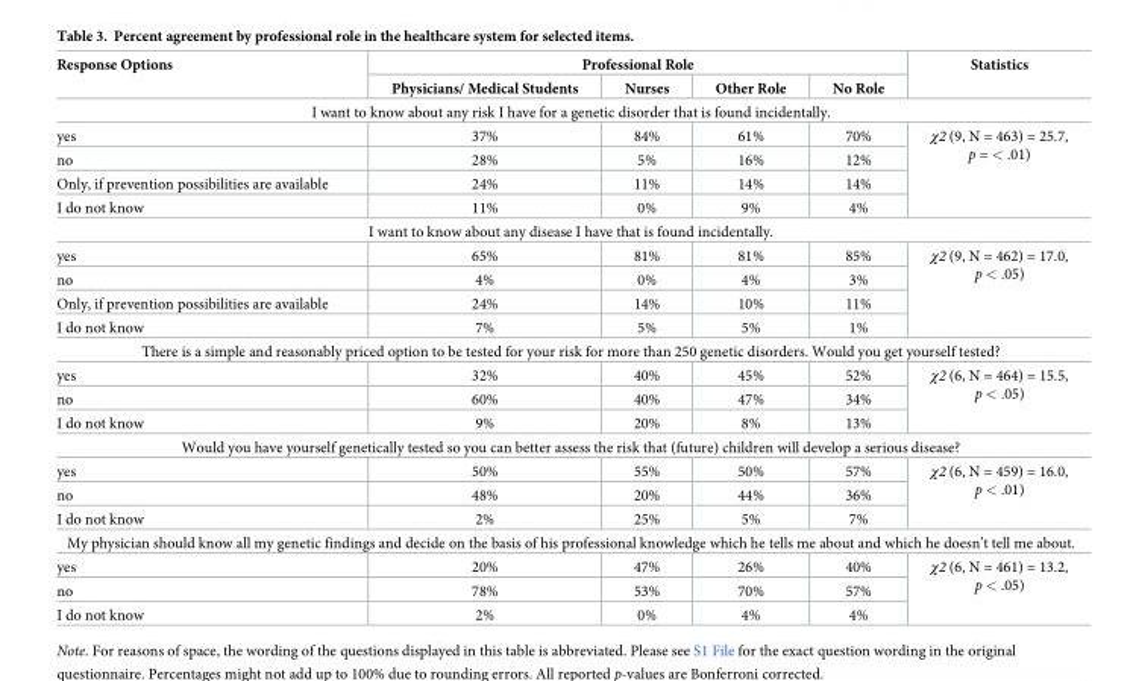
<table><thead><tr><td rowspan="2">Response Options</td><td colspan="4">Professional Role</td><td rowspan="2">Statistics</td></tr><tr><td>Physicians/ Medical Students</td><td>Nurses</td><td>Other Role</td><td>No Role</td></tr></thead><tbody><tr><td colspan="6">I want to know about any risk I have for a genetic disorder that is found incidentally.</td></tr><tr><td>yes</td><td>37%</td><td>84%</td><td>61%</td><td>70%</td><td rowspan="4">χ2 (9, N = 463) = 25.7, p = &lt; .01)</td></tr><tr><td>no</td><td>28%</td><td>5%</td><td>16%</td><td>12%</td></tr><tr><td>Only, if prevention possibilities are available</td><td>24%</td><td>11%</td><td>14%</td><td>14%</td></tr><tr><td>I do not know</td><td>11%</td><td>0%</td><td>9%</td><td>4%</td></tr><tr><td colspan="6">I want to know about any disease I have that is found incidentally.</td></tr><tr><td>yes</td><td>65%</td><td>81%</td><td>81%</td><td>85%</td><td rowspan="4">χ2 (9, N = 462) = 17.0, p &lt; .05)</td></tr><tr><td>no</td><td>4%</td><td>0%</td><td>4%</td><td>3%</td></tr><tr><td>Only, if prevention possibilities are available</td><td>24%</td><td>14%</td><td>10%</td><td>11%</td></tr><tr><td>I do not know</td><td>7%</td><td>5%</td><td>5%</td><td>1%</td></tr><tr><td colspan="6">There is a simple and reasonably priced option to be tested for your risk for more than 250 genetic disorders. Would you get yourself tested?</td></tr><tr><td>yes</td><td>32%</td><td>40%</td><td>45%</td><td>52%</td><td rowspan="3">χ2 (6, N = 464) = 15.5, p &lt; .05)</td></tr><tr><td>no</td><td>60%</td><td>40%</td><td>47%</td><td>34%</td></tr><tr><td>I do not know</td><td>9%</td><td>20%</td><td>8%</td><td>13%</td></tr><tr><td colspan="6">Would you have yourself genetically tested so you can better assess the risk that (future) children will develop a serious disease?</td></tr><tr><td>yes</td><td>50%</td><td>55%</td><td>50%</td><td>57%</td><td rowspan="3">χ2 (6, N = 459) = 16.0, p &lt; .01)</td></tr><tr><td>no</td><td>48%</td><td>20%</td><td>44%</td><td>36%</td></tr><tr><td>I do not know</td><td>2%</td><td>25%</td><td>5%</td><td>7%</td></tr><tr><td colspan="6">My physician should know all my genetic findings and decide on the basis of his professional knowledge which he tells me about and which he doesn’t tell me about.</td></tr><tr><td>yes</td><td>20%</td><td>47%</td><td>26%</td><td>40%</td><td rowspan="3">χ2 (6, N = 461) = 13.2, p &lt; .05)</td></tr><tr><td>no</td><td>78%</td><td>53%</td><td>70%</td><td>57%</td></tr><tr><td>I do not know</td><td>2%</td><td>0%</td><td>4%</td><td>4%</td></tr></tbody></table>